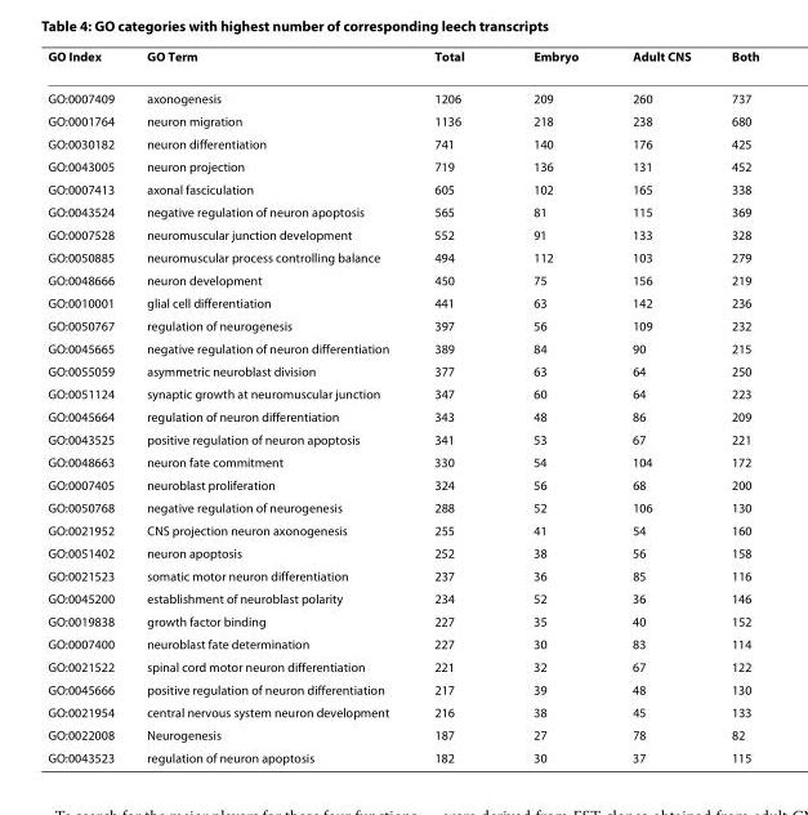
<table><thead><tr><td>GO Index</td><td>GO Term</td><td>Total</td><td>Embryo</td><td>Adult CNS</td><td>Both</td></tr></thead><tbody><tr><td>GO:0007409</td><td>axonogenesis</td><td>1206</td><td>209</td><td>260</td><td>737</td></tr><tr><td>GO:0001764</td><td>neuron migration</td><td>1136</td><td>218</td><td>238</td><td>680</td></tr><tr><td>GO:0030182</td><td>neuron differentiation</td><td>741</td><td>140</td><td>176</td><td>425</td></tr><tr><td>GO:0043005</td><td>neuron projection</td><td>719</td><td>136</td><td>131</td><td>452</td></tr><tr><td>GO:0007413</td><td>axonal fasciculation</td><td>605</td><td>102</td><td>165</td><td>338</td></tr><tr><td>GO:0043524</td><td>negative regulation of neuron apoptosis</td><td>565</td><td>81</td><td>115</td><td>369</td></tr><tr><td>GO:0007528</td><td>neuromuscular junction development</td><td>552</td><td>91</td><td>133</td><td>328</td></tr><tr><td>GO:0050885</td><td>neuromuscular process controlling balance</td><td>494</td><td>112</td><td>103</td><td>279</td></tr><tr><td>GO:0048666</td><td>neuron development</td><td>450</td><td>75</td><td>156</td><td>219</td></tr><tr><td>GO:0010001</td><td>glial cell differentiation</td><td>441</td><td>63</td><td>142</td><td>236</td></tr><tr><td>GO:0050767</td><td>regulation of neurogenesis</td><td>397</td><td>56</td><td>109</td><td>232</td></tr><tr><td>GO:0045665</td><td>negative regulation of neuron differentiation</td><td>389</td><td>84</td><td>90</td><td>215</td></tr><tr><td>GO:0055059</td><td>asymmetric neuroblast division</td><td>377</td><td>63</td><td>64</td><td>250</td></tr><tr><td>GO:0051124</td><td>synaptic growth at neuromuscular junction</td><td>347</td><td>60</td><td>64</td><td>223</td></tr><tr><td>GO:0045664</td><td>regulation of neuron differentiation</td><td>343</td><td>48</td><td>86</td><td>209</td></tr><tr><td>GO:0043525</td><td>positive regulation of neuron apoptosis</td><td>341</td><td>53</td><td>67</td><td>221</td></tr><tr><td>GO:0048663</td><td>neuron fate commitment</td><td>330</td><td>54</td><td>104</td><td>172</td></tr><tr><td>GO:0007405</td><td>neuroblast proliferation</td><td>324</td><td>56</td><td>68</td><td>200</td></tr><tr><td>GO:0050768</td><td>negative regulation of neurogenesis</td><td>288</td><td>52</td><td>106</td><td>130</td></tr><tr><td>GO:0021952</td><td>CNS projection neuron axonogenesis</td><td>255</td><td>41</td><td>54</td><td>160</td></tr><tr><td>GO:0051402</td><td>neuron apoptosis</td><td>252</td><td>38</td><td>56</td><td>158</td></tr><tr><td>GO:0021523</td><td>somatic motor neuron differentiation</td><td>237</td><td>36</td><td>85</td><td>116</td></tr><tr><td>GO:0045200</td><td>establishment of neuroblast polarity</td><td>234</td><td>52</td><td>36</td><td>146</td></tr><tr><td>GO:0019838</td><td>growth factor binding</td><td>227</td><td>35</td><td>40</td><td>152</td></tr><tr><td>GO:0007400</td><td>neuroblast fate determination</td><td>227</td><td>30</td><td>83</td><td>114</td></tr><tr><td>GO:0021522</td><td>spinal cord motor neuron differentiation</td><td>221</td><td>32</td><td>67</td><td>122</td></tr><tr><td>GO:0045666</td><td>positive regulation of neuron differentiation</td><td>217</td><td>39</td><td>48</td><td>130</td></tr><tr><td>GO:0021954</td><td>central nervous system neuron development</td><td>216</td><td>38</td><td>45</td><td>133</td></tr><tr><td>GO:0022008</td><td>Neurogenesis</td><td>187</td><td>27</td><td>78</td><td>82</td></tr><tr><td>GO:0043523</td><td>regulation of neuron apoptosis</td><td>182</td><td>30</td><td>37</td><td>115</td></tr></tbody></table>